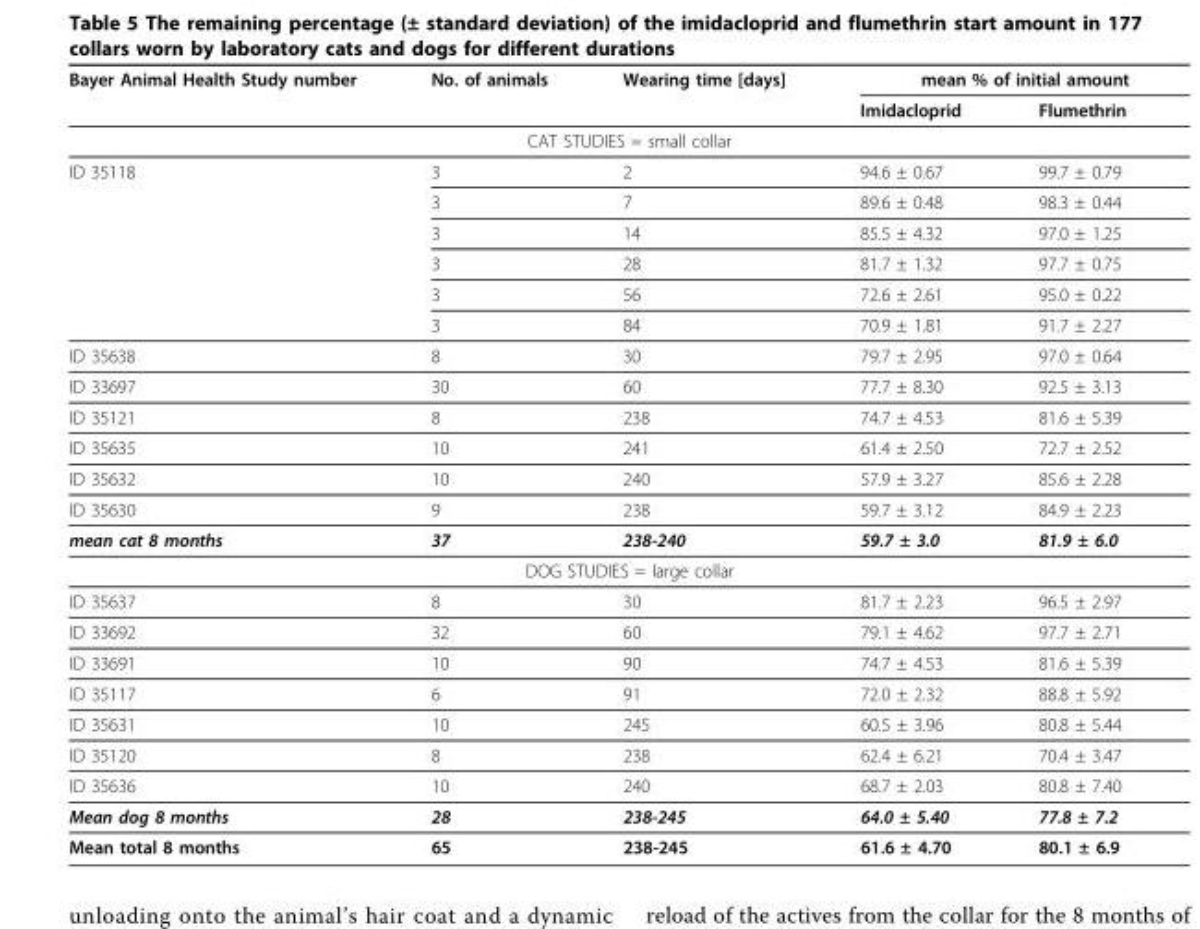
<table><thead><tr><td rowspan="2">Bayer Animal Health Study number</td><td rowspan="2">No. of animals</td><td rowspan="2">Wearing time [days]</td><td colspan="2">mean % of initial amount</td></tr><tr><td>Imidacloprid</td><td>Flumethrin</td></tr></thead><tbody><tr><td colspan="5">CAT STUDIES = small collar</td></tr><tr><td rowspan="6">ID 35118</td><td>3</td><td>2</td><td>94.6 ± 0.67</td><td>99.7 ± 0.79</td></tr><tr><td>3</td><td>7</td><td>89.6 ± 0.48</td><td>98.3 ± 0.44</td></tr><tr><td>3</td><td>14</td><td>85.5 ± 4.32</td><td>97.0 ± 1.25</td></tr><tr><td>3</td><td>28</td><td>81.7 ± 1.32</td><td>97.7 ± 0.75</td></tr><tr><td>3</td><td>56</td><td>72.6 ± 2.61</td><td>95.0 ± 0.22</td></tr><tr><td>3</td><td>84</td><td>70.9 ± 1.81</td><td>91.7 ± 2.27</td></tr><tr><td>ID 35638</td><td>8</td><td>30</td><td>79.7 ± 2.95</td><td>97.0 ± 0.64</td></tr><tr><td>ID 33697</td><td>30</td><td>60</td><td>77.7 ± 8.30</td><td>92.5 ± 3.13</td></tr><tr><td>ID 35121</td><td>8</td><td>238</td><td>74.7 ± 4.53</td><td>81.6 ± 5.39</td></tr><tr><td>ID 35635</td><td>10</td><td>241</td><td>61.4 ± 2.50</td><td>72.7 ± 2.52</td></tr><tr><td>ID 35632</td><td>10</td><td>240</td><td>57.9 ± 3.27</td><td>85.6 ± 2.28</td></tr><tr><td>ID 35630</td><td>9</td><td>238</td><td>59.7 ± 3.12</td><td>84.9 ± 2.23</td></tr><tr><td>mean cat 8 months</td><td>37</td><td>238-240</td><td>59.7 ± 3.0</td><td>81.9 ± 6.0</td></tr><tr><td colspan="5">DOG STUDIES = large collar</td></tr><tr><td>ID 35637</td><td>8</td><td>30</td><td>81.7 ± 2.23</td><td>96.5 ± 2.97</td></tr><tr><td>ID 33692</td><td>32</td><td>60</td><td>79.1 ± 4.62</td><td>97.7 ± 2.71</td></tr><tr><td>ID 33691</td><td>10</td><td>90</td><td>74.7 ± 4.53</td><td>81.6 ± 5.39</td></tr><tr><td>ID 35117</td><td>6</td><td>91</td><td>72.0 ± 2.32</td><td>88.8 ± 5.92</td></tr><tr><td>ID 35631</td><td>10</td><td>245</td><td>60.5 ± 3.96</td><td>80.8 ± 5.44</td></tr><tr><td>ID 35120</td><td>8</td><td>238</td><td>62.4 ± 6.21</td><td>70.4 ± 3.47</td></tr><tr><td>ID 35636</td><td>10</td><td>240</td><td>68.7 ± 2.03</td><td>80.8 ± 7.40</td></tr><tr><td>Mean dog 8 months</td><td>28</td><td>238-245</td><td>64.0 ± 5.40</td><td>77.8 ± 7.2</td></tr><tr><td>Mean total 8 months</td><td>65</td><td>238-245</td><td>61.6 ± 4.70</td><td>80.1 ± 6.9</td></tr></tbody></table>